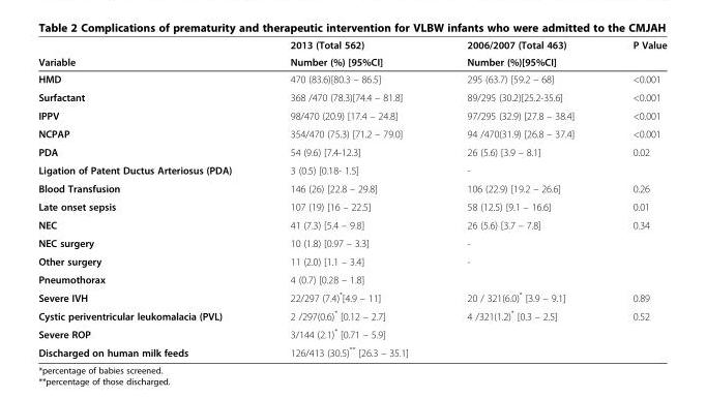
<table><thead><tr><td rowspan="2">Variable</td><td rowspan="2">2013 (Total 562) Number (%) [95%CI]</td><td rowspan="2">2006/2007 (Total 463) Number (%)[95%CI]</td><td rowspan="2">P Value</td></tr><tr></tr></thead><tbody><tr><td>HMD</td><td>470 (83.6)[80.3 – 86.5]</td><td>295 (63.7) [59.2 – 68]</td><td>&lt;0.001</td></tr><tr><td>Surfactant</td><td>368 /470 (78.3)[74.4 – 81.8]</td><td>89/295 (30.2)[25.2-35.6]</td><td>&lt;0.001</td></tr><tr><td>IPPV</td><td>98/470 (20.9) [17.4 – 24.8]</td><td>97/295 (32.9) [27.8 – 38.4]</td><td>&lt;0.001</td></tr><tr><td>NCPAP</td><td>354/470 (75.3) [71.2 – 79.0]</td><td>94 /470(31.9) [26.8 – 37.4]</td><td>&lt;0.001</td></tr><tr><td>PDA</td><td>54 (9.6) [7.4-12.3]</td><td>26 (5.6) [3.9 – 8.1]</td><td>0.02</td></tr><tr><td>Ligation of Patent Ductus Arteriosus (PDA)</td><td>3 (0.5) [0.18- 1.5]</td><td>-</td><td></td></tr><tr><td>Blood Transfusion</td><td>146 (26) [22.8 – 29.8]</td><td>106 (22.9) [19.2 – 26.6]</td><td>0.26</td></tr><tr><td>Late onset sepsis</td><td>107 (19) [16 – 22.5]</td><td>58 (12.5) [9.1 – 16.6]</td><td>0.01</td></tr><tr><td>NEC</td><td>41 (7.3) [5.4 – 9.8]</td><td>26 (5.6) [3.7 – 7.8]</td><td>0.34</td></tr><tr><td>NEC surgery</td><td>10 (1.8) [0.97 – 3.3]</td><td>-</td><td></td></tr><tr><td>Other surgery</td><td>11 (2.0) [1.1 – 3.4]</td><td>-</td><td></td></tr><tr><td>Pneumothorax</td><td>4 (0.7) [0.28 – 1.8]</td><td></td><td></td></tr><tr><td>Severe IVH</td><td>22/297 (7.4)*[4.9 – 11]</td><td>20 / 321(6.0)* [3.9 – 9.1]</td><td>0.89</td></tr><tr><td>Cystic periventricular leukomalacia (PVL)</td><td>2 /297(0.6)* [0.12 – 2.7]</td><td>4 /321(1.2)* [0.3 – 2.5]</td><td>0.52</td></tr><tr><td>Severe ROP</td><td>3/144 (2.1)* [0.71 – 5.9]</td><td></td><td></td></tr><tr><td>Discharged on human milk feeds</td><td>126/413 (30.5)** [26.3 – 35.1]</td><td></td><td></td></tr></tbody></table>